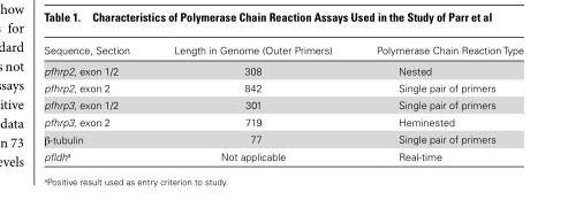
<table><thead><tr><td>Sequence, Section</td><td>Length in Genome (Outer Primers)</td><td>Polymerase Chain Reaction Type</td></tr></thead><tbody><tr><td>pfhrp2, exon 1/2</td><td>308</td><td>Nested</td></tr><tr><td>pfhrp2, exon 2</td><td>842</td><td>Single pair of primers</td></tr><tr><td>pfhrp3, exon 1/2</td><td>301</td><td>Single pair of primers</td></tr><tr><td>pfhrp3, exon 2</td><td>719</td><td>Heminested</td></tr><tr><td>β-tubulin</td><td>77</td><td>Single pair of primers</td></tr><tr><td>pfldh<sup>a</sup></td><td>Not applicable</td><td>Real-time</td></tr></tbody></table>